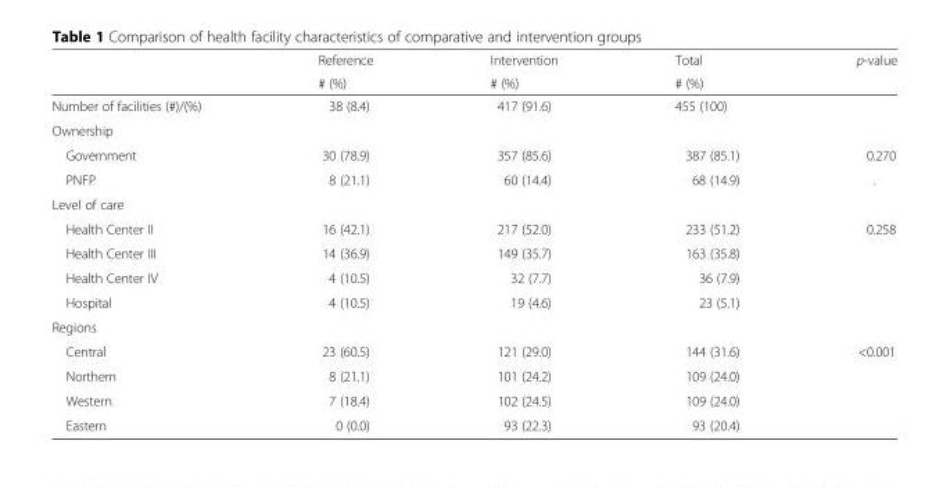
<table><thead><tr><td rowspan="2"></td><td rowspan="2">Reference # (%)</td><td rowspan="2">Intervention # (%)</td><td rowspan="2">Total # (%)</td><td rowspan="2">p-value</td></tr><tr></tr></thead><tbody><tr><td>Number of facilities (#)/(%)</td><td>38 (8.4)</td><td>417 (91.6)</td><td>455 (100)</td><td></td></tr><tr><td colspan="5">Ownership</td></tr><tr><td>Government</td><td>30 (78.9)</td><td>357 (85.6)</td><td>387 (85.1)</td><td>0.270</td></tr><tr><td>PNFP</td><td>8 (21.1)</td><td>60 (14.4)</td><td>68 (14.9)</td><td>.</td></tr><tr><td colspan="5">Level of care</td></tr><tr><td>Health Center II</td><td>16 (42.1)</td><td>217 (52.0)</td><td>233 (51.2)</td><td>0.258</td></tr><tr><td>Health Center III</td><td>14 (36.9)</td><td>149 (35.7)</td><td>163 (35.8)</td><td></td></tr><tr><td>Health Center IV</td><td>4 (10.5)</td><td>32 (7.7)</td><td>36 (7.9)</td><td></td></tr><tr><td>Hospital</td><td>4 (10.5)</td><td>19 (4.6)</td><td>23 (5.1)</td><td></td></tr><tr><td colspan="5">Regions</td></tr><tr><td>Central</td><td>23 (60.5)</td><td>121 (29.0)</td><td>144 (31.6)</td><td>&lt;0.001</td></tr><tr><td>Northern</td><td>8 (21.1)</td><td>101 (24.2)</td><td>109 (24.0)</td><td></td></tr><tr><td>Western</td><td>7 (18.4)</td><td>102 (24.5)</td><td>109 (24.0)</td><td></td></tr><tr><td>Eastern</td><td>0 (0.0)</td><td>93 (22.3)</td><td>93 (20.4)</td><td></td></tr></tbody></table>